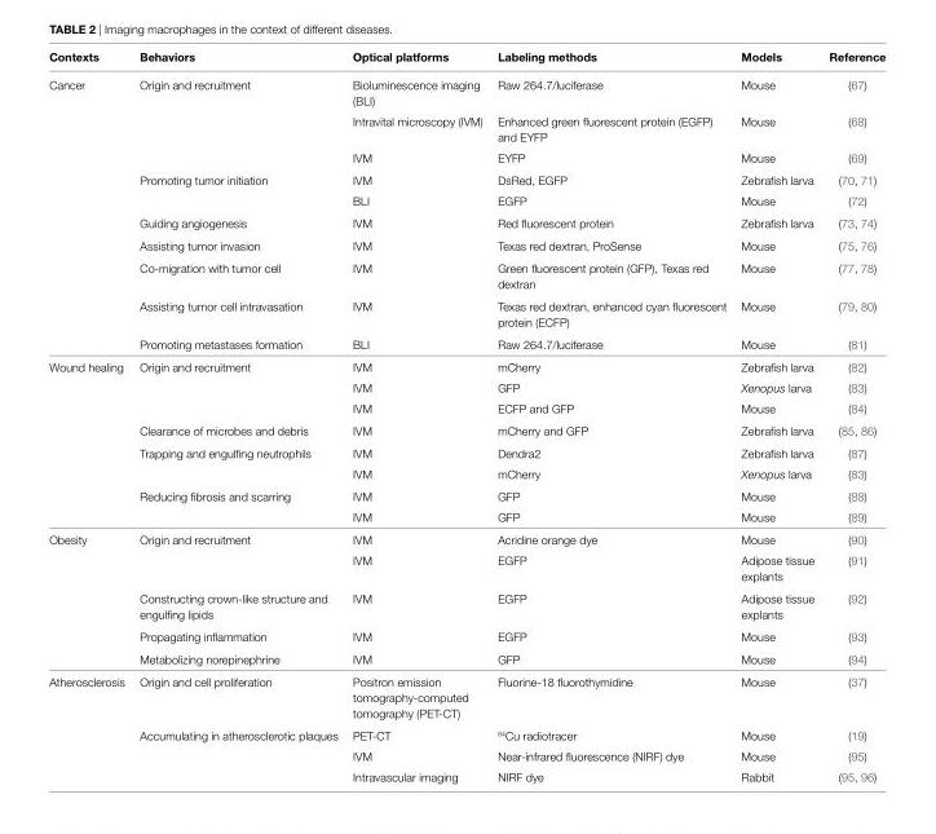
<table><thead><tr><td>Contexts</td><td>behaviors</td><td>Optical platforms</td><td>labeling methods</td><td>Models</td><td>Reference</td></tr></thead><tbody><tr><td rowspan="10">Cancer</td><td rowspan="3">Origin and recruitment</td><td>Bioluminescence imaging (BLI)</td><td>Raw 264.7/luciferase</td><td>Mouse</td><td>(67)</td></tr><tr><td>Intravital microscopy (IVM)</td><td>Enhanced green fluorescent protein (EGFP) and EYFP</td><td>Mouse</td><td>(68)</td></tr><tr><td>IVM</td><td>EYFP</td><td>Mouse</td><td>(69)</td></tr><tr><td rowspan="2">Promoting tumor initiation</td><td>IVM</td><td>DsRed, EGFP</td><td>Zebrafish larva</td><td>(70, 71)</td></tr><tr><td>BLI</td><td>EGFP</td><td>Mouse</td><td>(72)</td></tr><tr><td>Guiding angiogenesis</td><td>IVM</td><td>Red fluorescent protein</td><td>Zebrafish larva</td><td>(73, 74)</td></tr><tr><td>Assisting tumor invasion</td><td>IVM</td><td>Texas red dextran, ProSense</td><td>Mouse</td><td>(75, 76)</td></tr><tr><td>Co-migration with tumor cell</td><td>IVM</td><td>Green fluorescent protein (GFP), Texas red dextran</td><td>Mouse</td><td>(77, 78)</td></tr><tr><td>Assisting tumor cell intravasation</td><td>IVM</td><td>Texas red dextran, enhanced cyan fluorescent protein (ECFP)</td><td>Mouse</td><td>(79, 80)</td></tr><tr><td>Promoting metastases formation</td><td>BLI</td><td>Raw 264.7/luciferase</td><td>Mouse</td><td>(81)</td></tr><tr><td rowspan="8">Wound healing</td><td rowspan="3">Origin and recruitment</td><td>IVM</td><td>mCherry</td><td>Zebrafish larva</td><td>(82)</td></tr><tr><td>IVM</td><td>GFP</td><td>Xenopus larva</td><td>(83)</td></tr><tr><td>IVM</td><td>ECFP and GFP</td><td>Mouse</td><td>(84)</td></tr><tr><td>Clearance of microbes and debris</td><td>IVM</td><td>mCherry and GFP</td><td>Zebrafish larva</td><td>(85, 86)</td></tr><tr><td rowspan="2">Trapping and engulfing neutrophils</td><td>IVM</td><td>Dendra2</td><td>Zebrafish larva</td><td>(87)</td></tr><tr><td>IVM</td><td>mCherry</td><td>Xenopus larva</td><td>(83)</td></tr><tr><td rowspan="2">Reducing fibrosis and scarring</td><td>IVM</td><td>GFP</td><td>Mouse</td><td>(88)</td></tr><tr><td>IVM</td><td>GFP</td><td>Mouse</td><td>(89)</td></tr><tr><td rowspan="5">Obesity</td><td rowspan="2">Origin and recruitment</td><td>IVM</td><td>Acridine orange dye</td><td>Mouse</td><td>(90)</td></tr><tr><td>IVM</td><td>EGFP</td><td>Adipose tissue explants</td><td>(91)</td></tr><tr><td>Constructing crown-like structure and engulfing lipids</td><td>IVM</td><td>EGFP</td><td>Adipose tissue explants</td><td>(92)</td></tr><tr><td>Propagating inflammation</td><td>IVM</td><td>EGFP</td><td>Mouse</td><td>(93)</td></tr><tr><td>Metabolizing norepinephrine</td><td>IVM</td><td>GFP</td><td>Mouse</td><td>(94)</td></tr><tr><td rowspan="4">Atherosclerosis</td><td>Origin and cell proliferation</td><td>Positron emission tomography-computed tomography (PET-CT)</td><td>Fluorine-18 fluorothymidine</td><td>Mouse</td><td>(37)</td></tr><tr><td rowspan="3">Accumulating in atherosclerotic plaques</td><td>PET-CT</td><td><sup>64</sup>Cu radiotracer</td><td>Mouse</td><td>(19)</td></tr><tr><td>IVM</td><td>Near-infrared fluorescence (NIRF) dye</td><td>Mouse</td><td>(95)</td></tr><tr><td>Intravascular imaging</td><td>NIRF dye</td><td>Rabbit</td><td>(95, 96)</td></tr></tbody></table>